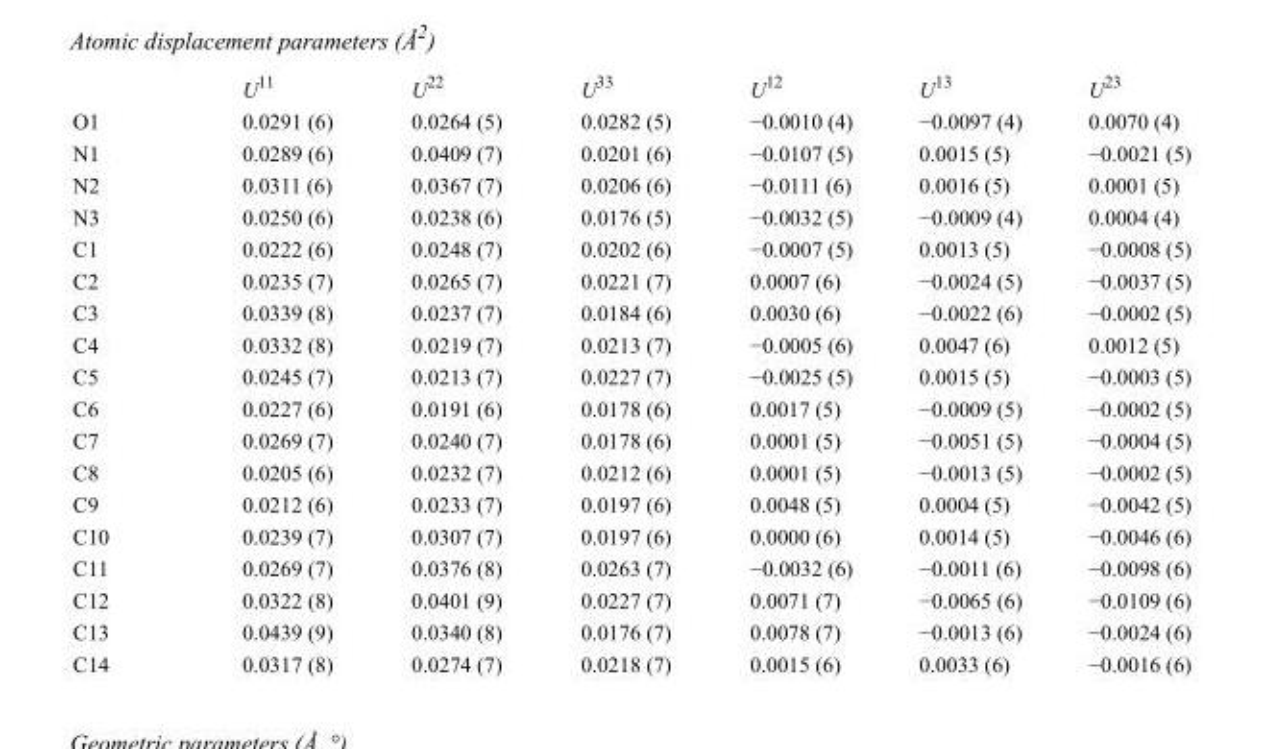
<table><thead><tr><td></td><td>U<sup>11</sup></td><td>U<sup>22</sup></td><td>U<sup>33</sup></td><td>U<sup>12</sup></td><td>U<sup>13</sup></td><td>U<sup>23</sup></td></tr></thead><tbody><tr><td>O1</td><td>0.0291 (6)</td><td>0.0264 (5)</td><td>0.0282 (5)</td><td>−0.0010 (4)</td><td>−0.0097 (4)</td><td>0.0070 (4)</td></tr><tr><td>N1</td><td>0.0289 (6)</td><td>0.0409 (7)</td><td>0.0201 (6)</td><td>−0.0107 (5)</td><td>0.0015 (5)</td><td>−0.0021 (5)</td></tr><tr><td>N2</td><td>0.0311 (6)</td><td>0.0367 (7)</td><td>0.0206 (6)</td><td>−0.0111 (6)</td><td>0.0016 (5)</td><td>0.0001 (5)</td></tr><tr><td>N3</td><td>0.0250 (6)</td><td>0.0238 (6)</td><td>0.0176 (5)</td><td>−0.0032 (5)</td><td>−0.0009 (4)</td><td>0.0004 (4)</td></tr><tr><td>C1</td><td>0.0222 (6)</td><td>0.0248 (7)</td><td>0.0202 (6)</td><td>−0.0007 (5)</td><td>0.0013 (5)</td><td>−0.0008 (5)</td></tr><tr><td>C2</td><td>0.0235 (7)</td><td>0.0265 (7)</td><td>0.0221 (7)</td><td>0.0007 (6)</td><td>−0.0024 (5)</td><td>−0.0037 (5)</td></tr><tr><td>C3</td><td>0.0339 (8)</td><td>0.0237 (7)</td><td>0.0184 (6)</td><td>0.0030 (6)</td><td>−0.0022 (6)</td><td>−0.0002 (5)</td></tr><tr><td>C4</td><td>0.0332 (8)</td><td>0.0219 (7)</td><td>0.0213 (7)</td><td>−0.0005 (6)</td><td>0.0047 (6)</td><td>0.0012 (5)</td></tr><tr><td>C5</td><td>0.0245 (7)</td><td>0.0213 (7)</td><td>0.0227 (7)</td><td>−0.0025 (5)</td><td>0.0015 (5)</td><td>−0.0003 (5)</td></tr><tr><td>C6</td><td>0.0227 (6)</td><td>0.0191 (6)</td><td>0.0178 (6)</td><td>0.0017 (5)</td><td>−0.0009 (5)</td><td>−0.0002 (5)</td></tr><tr><td>C7</td><td>0.0269 (7)</td><td>0.0240 (7)</td><td>0.0178 (6)</td><td>0.0001 (5)</td><td>−0.0051 (5)</td><td>−0.0004 (5)</td></tr><tr><td>C8</td><td>0.0205 (6)</td><td>0.0232 (7)</td><td>0.0212 (6)</td><td>0.0001 (5)</td><td>−0.0013 (5)</td><td>−0.0002 (5)</td></tr><tr><td>C9</td><td>0.0212 (6)</td><td>0.0233 (7)</td><td>0.0197 (6)</td><td>0.0048 (5)</td><td>0.0004 (5)</td><td>−0.0042 (5)</td></tr><tr><td>C10</td><td>0.0239 (7)</td><td>0.0307 (7)</td><td>0.0197 (6)</td><td>0.0000 (6)</td><td>0.0014 (5)</td><td>−0.0046 (6)</td></tr><tr><td>C11</td><td>0.0269 (7)</td><td>0.0376 (8)</td><td>0.0263 (7)</td><td>−0.0032 (6)</td><td>−0.0011 (6)</td><td>−0.0098 (6)</td></tr><tr><td>C12</td><td>0.0322 (8)</td><td>0.0401 (9)</td><td>0.0227 (7)</td><td>0.0071 (7)</td><td>−0.0065 (6)</td><td>−0.0109 (6)</td></tr><tr><td>C13</td><td>0.0439 (9)</td><td>0.0340 (8)</td><td>0.0176 (7)</td><td>0.0078 (7)</td><td>−0.0013 (6)</td><td>−0.0024 (6)</td></tr><tr><td>C14</td><td>0.0317 (8)</td><td>0.0274 (7)</td><td>0.0218 (7)</td><td>0.0015 (6)</td><td>0.0033 (6)</td><td>−0.0016 (6)</td></tr></tbody></table>